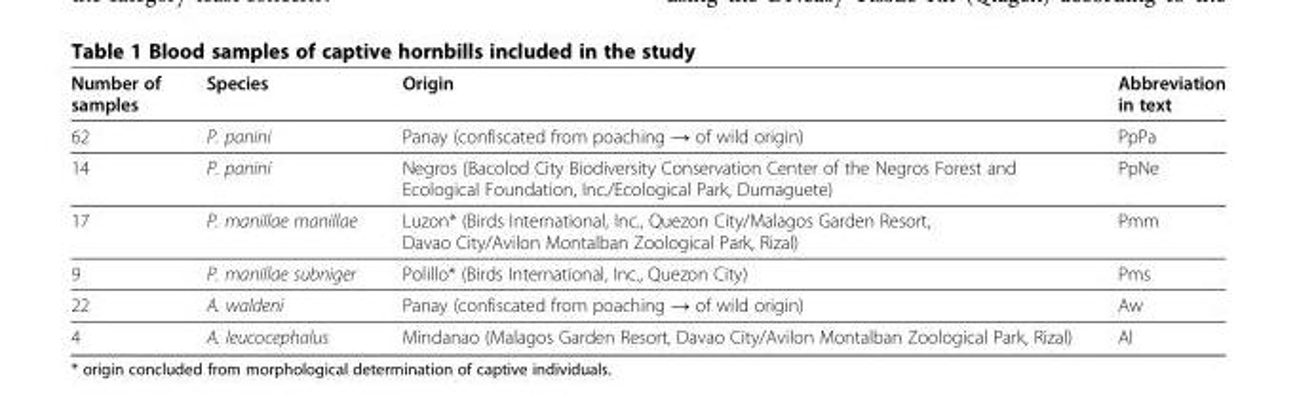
<table><thead><tr><td>Number of samples</td><td>Species</td><td>Origin</td><td>Abbreviation in text</td></tr></thead><tbody><tr><td>62</td><td>P. panini</td><td>Panay (confiscated from poaching → of wild origin)</td><td>PpPa</td></tr><tr><td>14</td><td>P. panini</td><td>Negros (Bacolod City Biodiversity Conservation Center of the Negros Forest and Ecological Foundation, Inc./Ecological Park, Dumaguete)</td><td>PpNe</td></tr><tr><td>17</td><td>P. manillae manillae</td><td>Luzon* (Birds International, Inc., Quezon City/Malagos Garden Resort, Davao City/Avilon Montalban Zoological Park, Rizal)</td><td>Pmm</td></tr><tr><td>9</td><td>P. manillae subniger</td><td>Polillo* (Birds International, Inc., Quezon City)</td><td>Pms</td></tr><tr><td>22</td><td>A. waldeni</td><td>Panay (confiscated from poaching → of wild origin)</td><td>Aw</td></tr><tr><td>4</td><td>A. leucocephalus</td><td>Mindanao (Malagos Garden Resort, Davao City/Avilon Montalban Zoological Park, Rizal)</td><td>Al</td></tr></tbody></table>